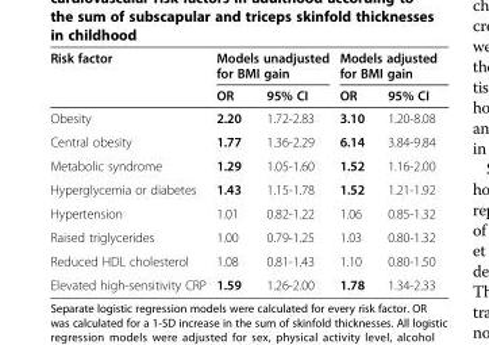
<table><thead><tr><td rowspan="2">Risk factor</td><td colspan="2">Models unadjusted for BMI gain</td><td colspan="2">Models adjusted for BMI gain</td></tr><tr><td>OR</td><td>95% CI</td><td>OR</td><td>95% CI</td></tr></thead><tbody><tr><td>Obesity</td><td>2.20</td><td>1.72-2.83</td><td>3.10</td><td>1.20-8.08</td></tr><tr><td>Central obesity</td><td>1.77</td><td>1.36-2.29</td><td>6.14</td><td>3.84-9.84</td></tr><tr><td>Metabolic syndrome</td><td>1.29</td><td>1.05-1.60</td><td>1.52</td><td>1.16-2.00</td></tr><tr><td>Hyperglycemia or diabetes</td><td>1.43</td><td>1.15-1.78</td><td>1.52</td><td>1.21-1.92</td></tr><tr><td>Hypertension</td><td>1.01</td><td>0.82-1.22</td><td>1.06</td><td>0.85-1.32</td></tr><tr><td>Raised triglycerides</td><td>1.00</td><td>0.79-1.25</td><td>1.03</td><td>0.80-1.32</td></tr><tr><td>Reduced HDL cholesterol</td><td>1.08</td><td>0.81-1.43</td><td>1.10</td><td>0.80-1.50</td></tr><tr><td>Elevated high-sensitivity CRP</td><td>1.59</td><td>1.26-2.00</td><td>1.78</td><td>1.34-2.33</td></tr></tbody></table>